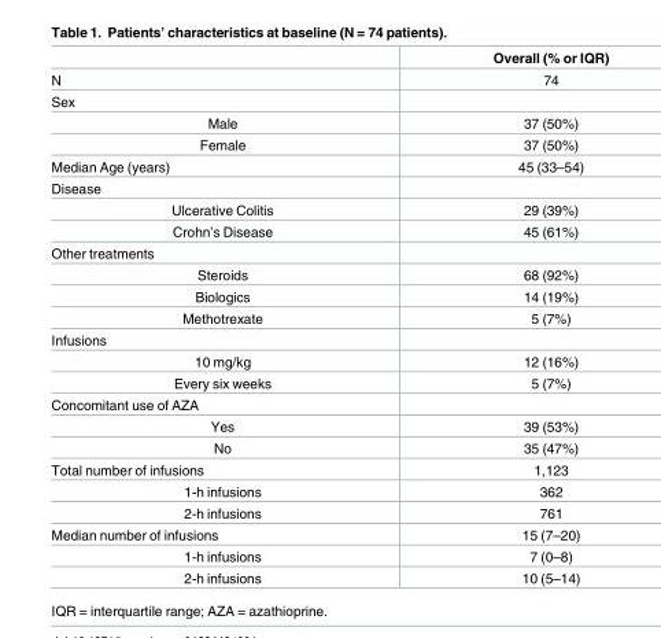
<table><thead><tr><td></td><td>Overall (% or IQR)</td></tr></thead><tbody><tr><td>N</td><td>74</td></tr><tr><td colspan="2">Sex</td></tr><tr><td>Male</td><td>37 (50%)</td></tr><tr><td>Female</td><td>37 (50%)</td></tr><tr><td>Median Age (years)</td><td>45 (33–54)</td></tr><tr><td colspan="2">Disease</td></tr><tr><td>Ulcerative Colitis</td><td>29 (39%)</td></tr><tr><td>Crohn’s Disease</td><td>45 (61%)</td></tr><tr><td colspan="2">Other treatments</td></tr><tr><td>Steroids</td><td>68 (92%)</td></tr><tr><td>Biologics</td><td>14 (19%)</td></tr><tr><td>Methotrexate</td><td>5 (7%)</td></tr><tr><td colspan="2">Infusions</td></tr><tr><td>10 mg/kg</td><td>12 (16%)</td></tr><tr><td>Every six weeks</td><td>5 (7%)</td></tr><tr><td colspan="2">Concomitant use of AZA</td></tr><tr><td>Yes</td><td>39 (53%)</td></tr><tr><td>No</td><td>35 (47%)</td></tr><tr><td>Total number of infusions</td><td>1,123</td></tr><tr><td>1-h infusions</td><td>362</td></tr><tr><td>2-h infusions</td><td>761</td></tr><tr><td>Median number of infusions</td><td>15 (7–20)</td></tr><tr><td>1-h infusions</td><td>7 (0–8)</td></tr><tr><td>2-h infusions</td><td>10 (5–14)</td></tr></tbody></table>